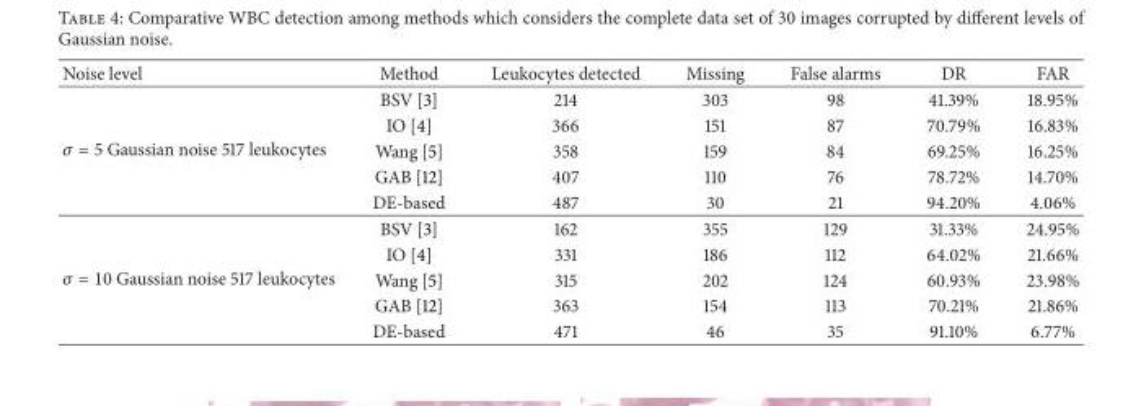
<table><thead><tr><td>Noise level</td><td>Method</td><td>Leukocytes detected</td><td>Missing</td><td>False alarms</td><td>DR</td><td>FAR</td></tr></thead><tbody><tr><td rowspan="5">𝜎 = 5 Gaussian noise 517 leukocytes</td><td>BSV [3]</td><td>214</td><td>303</td><td>98</td><td>41.39%</td><td>18.95%</td></tr><tr><td>IO [4]</td><td>366</td><td>151</td><td>87</td><td>70.79%</td><td>16.83%</td></tr><tr><td>Wang [5]</td><td>358</td><td>159</td><td>84</td><td>69.25%</td><td>16.25%</td></tr><tr><td>GAB [12]</td><td>407</td><td>110</td><td>76</td><td>78.72%</td><td>14.70%</td></tr><tr><td>DE-based</td><td>487</td><td>30</td><td>21</td><td>94.20%</td><td>4.06%</td></tr><tr><td rowspan="5">𝜎 = 10 Gaussian noise 517 leukocytes</td><td>BSV [3]</td><td>162</td><td>355</td><td>129</td><td>31.33%</td><td>24.95%</td></tr><tr><td>IO [4]</td><td>331</td><td>186</td><td>112</td><td>64.02%</td><td>21.66%</td></tr><tr><td>Wang [5]</td><td>315</td><td>202</td><td>124</td><td>60.93%</td><td>23.98%</td></tr><tr><td>GAB [12]</td><td>363</td><td>154</td><td>113</td><td>70.21%</td><td>21.86%</td></tr><tr><td>DE-based</td><td>471</td><td>46</td><td>35</td><td>91.10%</td><td>6.77%</td></tr></tbody></table>